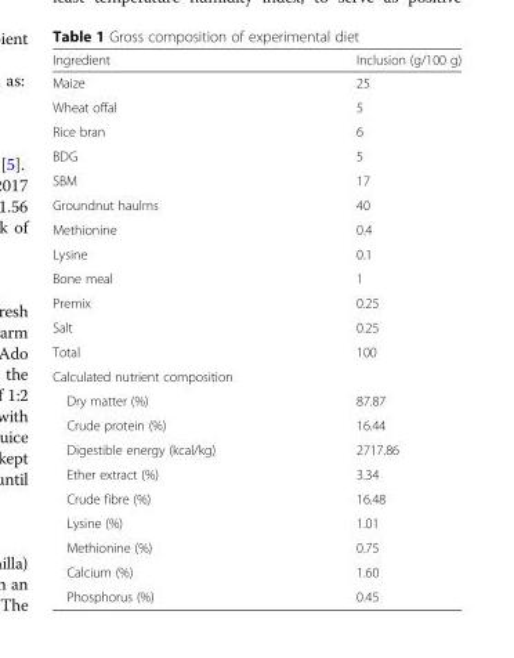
<table><thead><tr><td>Ingredient</td><td>Inclusion (g/100 g)</td></tr></thead><tbody><tr><td>Maize</td><td>25</td></tr><tr><td>Wheat offal</td><td>5</td></tr><tr><td>Rice bran</td><td>6</td></tr><tr><td>BDG</td><td>5</td></tr><tr><td>SBM</td><td>17</td></tr><tr><td>Groundnut haulms</td><td>40</td></tr><tr><td>Methionine</td><td>0.4</td></tr><tr><td>Lysine</td><td>0.1</td></tr><tr><td>Bone meal</td><td>1</td></tr><tr><td>Premix</td><td>0.25</td></tr><tr><td>Salt</td><td>0.25</td></tr><tr><td>Total</td><td>100</td></tr><tr><td colspan="2">Calculated nutrient composition</td></tr><tr><td>Dry matter (%)</td><td>87.87</td></tr><tr><td>Crude protein (%)</td><td>16.44</td></tr><tr><td>Digestible energy (kcal/kg)</td><td>2717.86</td></tr><tr><td>Ether extract (%)</td><td>3.34</td></tr><tr><td>Crude fibre (%)</td><td>16.48</td></tr><tr><td>Lysine (%)</td><td>1.01</td></tr><tr><td>Methionine (%)</td><td>0.75</td></tr><tr><td>Calcium (%)</td><td>1.60</td></tr><tr><td>Phosphorus (%)</td><td>0.45</td></tr></tbody></table>